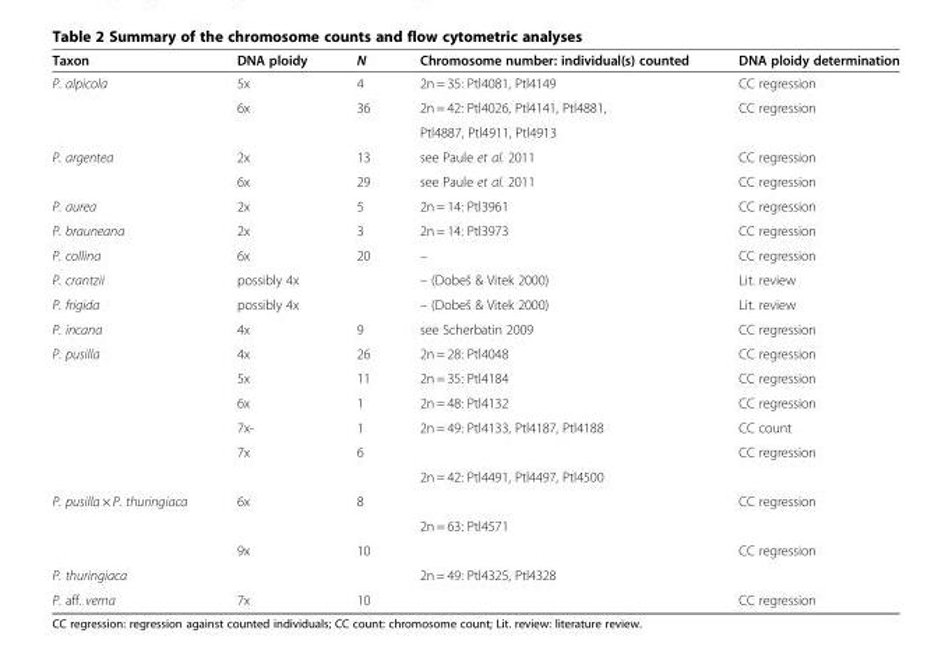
<table><thead><tr><td>Taxon</td><td>DNA ploidy</td><td>N</td><td>Chromosome number: individual(s) counted</td><td>DNA ploidy determination</td></tr></thead><tbody><tr><td rowspan="3">P. alpicola</td><td>5x</td><td>4</td><td>2n = 35: Ptl4081, Ptl4149</td><td>CC regression</td></tr><tr><td>6x</td><td>36</td><td>2n = 42: Ptl4026, Ptl4141, Ptl4881,</td><td>CC regression</td></tr><tr><td></td><td></td><td>Ptl4887, Ptl4911, Ptl4913</td><td></td></tr><tr><td rowspan="2">P. argentea</td><td>2x</td><td>13</td><td>see Paule et al. 2011</td><td>CC regression</td></tr><tr><td>6x</td><td>29</td><td>see Paule et al. 2011</td><td>CC regression</td></tr><tr><td>P. aurea</td><td>2x</td><td>5</td><td>2n = 14: Ptl3961</td><td>CC regression</td></tr><tr><td>P. brauneana</td><td>2x</td><td>3</td><td>2n = 14: Ptl3973</td><td>CC regression</td></tr><tr><td>P. collina</td><td>6x</td><td>20</td><td>–</td><td>CC regression</td></tr><tr><td>P. crantzii</td><td>possibly 4x</td><td></td><td>– (Dobeš &amp; Vitek 2000)</td><td>Lit. review</td></tr><tr><td>P. frigida</td><td>possibly 4x</td><td></td><td>– (Dobeš &amp; Vitek 2000)</td><td>Lit. review</td></tr><tr><td>P. incana</td><td>4x</td><td>9</td><td>see Scherbatin 2009</td><td>CC regression</td></tr><tr><td rowspan="6">P. pusilla</td><td>4x</td><td>26</td><td>2n = 28: Ptl4048</td><td>CC regression</td></tr><tr><td>5x</td><td>11</td><td>2n = 35: Ptl4184</td><td>CC regression</td></tr><tr><td>6x</td><td>1</td><td>2n = 48: Ptl4132</td><td>CC regression</td></tr><tr><td>7x-</td><td>1</td><td>2n = 49: Ptl4133, Ptl4187, Ptl4188</td><td>CC count</td></tr><tr><td>7x</td><td>6</td><td></td><td>CC regression</td></tr><tr><td></td><td></td><td>2n = 42: Ptl4491, Ptl4497, Ptl4500</td><td></td></tr><tr><td rowspan="3">P. pusilla × P. thuringiaca</td><td>6x</td><td>8</td><td></td><td>CC regression</td></tr><tr><td></td><td></td><td>2n = 63: Ptl4571</td><td></td></tr><tr><td>9x</td><td>10</td><td></td><td>CC regression</td></tr><tr><td>P. thuringiaca</td><td></td><td></td><td>2n = 49: Ptl4325, Ptl4328</td><td></td></tr><tr><td>P. aff. verna</td><td>7x</td><td>10</td><td></td><td>CC regression</td></tr></tbody></table>